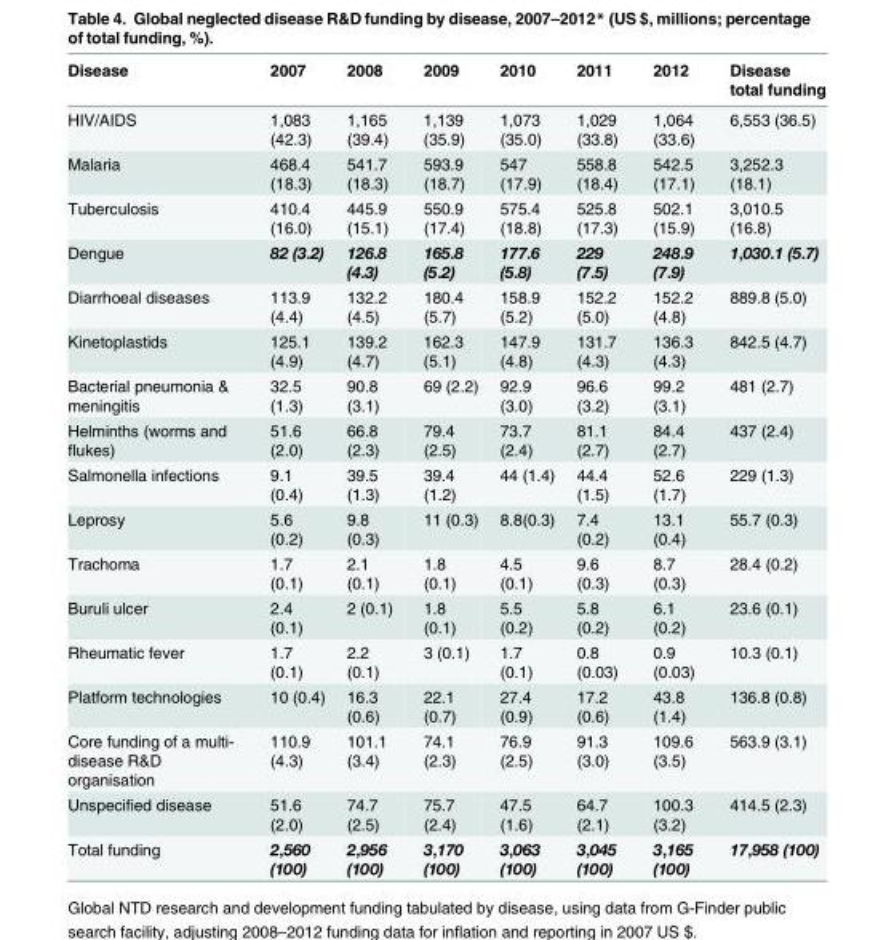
<table><thead><tr><td>Disease</td><td>2007</td><td>2008</td><td>2009</td><td>2010</td><td>2011</td><td>2012</td><td>Disease total funding</td></tr></thead><tbody><tr><td>HIV/AIDS</td><td>1,083 (42.3)</td><td>1,165 (39.4)</td><td>1,139 (35.9)</td><td>1,073 (35.0)</td><td>1,029 (33.8)</td><td>1,064 (33.6)</td><td>6,553 (36.5)</td></tr><tr><td>Malaria</td><td>468.4 (18.3)</td><td>541.7 (18.3)</td><td>593.9 (18.7)</td><td>547 (17.9)</td><td>558.8 (18.4)</td><td>542.5 (17.1)</td><td>3,252.3 (18.1)</td></tr><tr><td>Tuberculosis</td><td>410.4 (16.0)</td><td>445.9 (15.1)</td><td>550.9 (17.4)</td><td>575.4 (18.8)</td><td>525.8 (17.3)</td><td>502.1 (15.9)</td><td>3,010.5 (16.8)</td></tr><tr><td>Dengue</td><td>82 (3.2)</td><td>126.8 (4.3)</td><td>165.8 (5.2)</td><td>177.6 (5.8)</td><td>229 (7.5)</td><td>248.9 (7.9)</td><td>1,030.1 (5.7)</td></tr><tr><td>Diarrhoeal diseases</td><td>113.9 (4.4)</td><td>132.2 (4.5)</td><td>180.4 (5.7)</td><td>158.9 (5.2)</td><td>152.2 (5.0)</td><td>152.2 (4.8)</td><td>889.8 (5.0)</td></tr><tr><td>Kinetoplastids</td><td>125.1 (4.9)</td><td>139.2 (4.7)</td><td>162.3 (5.1)</td><td>147.9 (4.8)</td><td>131.7 (4.3)</td><td>136.3 (4.3)</td><td>842.5 (4.7)</td></tr><tr><td>Bacterial pneumonia &amp; meningitis</td><td>32.5 (1.3)</td><td>90.8 (3.1)</td><td>69 (2.2)</td><td>92.9 (3.0)</td><td>96.6 (3.2)</td><td>99.2 (3.1)</td><td>481 (2.7)</td></tr><tr><td>Helminths (worms and flukes)</td><td>51.6 (2.0)</td><td>66.8 (2.3)</td><td>79.4 (2.5)</td><td>73.7 (2.4)</td><td>81.1 (2.7)</td><td>84.4 (2.7)</td><td>437 (2.4)</td></tr><tr><td>Salmonella infections</td><td>9.1 (0.4)</td><td>39.5 (1.3)</td><td>39.4 (1.2)</td><td>44 (1.4)</td><td>44.4 (1.5)</td><td>52.6 (1.7)</td><td>229 (1.3)</td></tr><tr><td>Leprosy</td><td>5.6 (0.2)</td><td>9.8 (0.3)</td><td>11 (0.3)</td><td>8.8(0.3)</td><td>7.4 (0.2)</td><td>13.1 (0.4)</td><td>55.7 (0.3)</td></tr><tr><td>Trachoma</td><td>1.7 (0.1)</td><td>2.1 (0.1)</td><td>1.8 (0.1)</td><td>4.5 (0.1)</td><td>9.6 (0.3)</td><td>8.7 (0.3)</td><td>28.4 (0.2)</td></tr><tr><td>Buruli ulcer</td><td>2.4 (0.1)</td><td>2 (0.1)</td><td>1.8 (0.1)</td><td>5.5 (0.2)</td><td>5.8 (0.2)</td><td>6.1 (0.2)</td><td>23.6 (0.1)</td></tr><tr><td>Rheumatic fever</td><td>1.7 (0.1)</td><td>2.2 (0.1)</td><td>3 (0.1)</td><td>1.7 (0.1)</td><td>0.8 (0.03)</td><td>0.9 (0.03)</td><td>10.3 (0.1)</td></tr><tr><td>Platform technologies</td><td>10 (0.4)</td><td>16.3 (0.6)</td><td>22.1 (0.7)</td><td>27.4 (0.9)</td><td>17.2 (0.6)</td><td>43.8 (1.4)</td><td>136.8 (0.8)</td></tr><tr><td>Core funding of a multi- disease R&amp;D organisation</td><td>110.9 (4.3)</td><td>101.1 (3.4)</td><td>74.1 (2.3)</td><td>76.9 (2.5)</td><td>91.3 (3.0)</td><td>109.6 (3.5)</td><td>563.9 (3.1)</td></tr><tr><td>Unspecified disease</td><td>51.6 (2.0)</td><td>74.7 (2.5)</td><td>75.7 (2.4)</td><td>47.5 (1.6)</td><td>64.7 (2.1)</td><td>100.3 (3.2)</td><td>414.5 (2.3)</td></tr><tr><td>Total funding</td><td>2,560 (100)</td><td>2,956 (100)</td><td>3,170 (100)</td><td>3,063 (100)</td><td>3,045 (100)</td><td>3,165 (100)</td><td>17,958 (100)</td></tr></tbody></table>